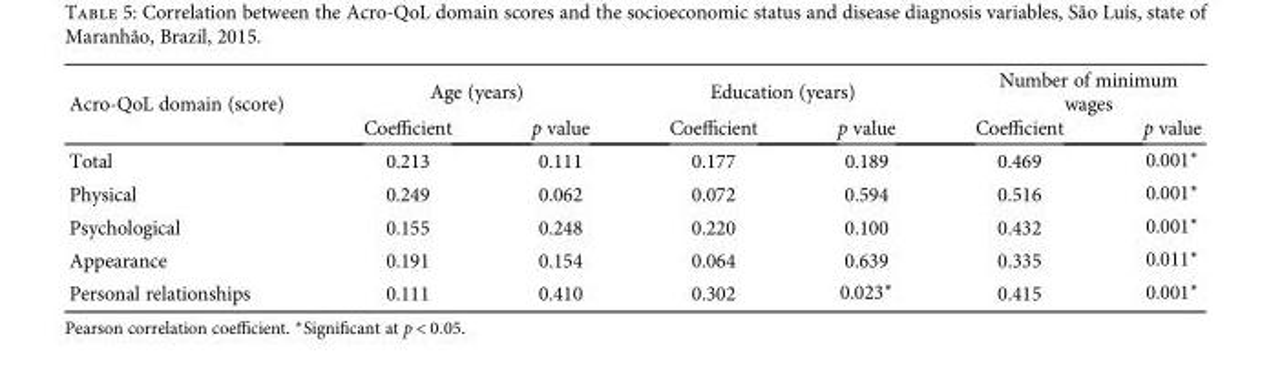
<table><thead><tr><td rowspan="2">Acro-QoL domain (score)</td><td colspan="2">Age (years)</td><td colspan="2">Education (years)</td><td colspan="2">Number of minimum wages</td></tr><tr><td>Coefficient</td><td>p value</td><td>Coefficient</td><td>p value</td><td>Coefficient</td><td>p value</td></tr></thead><tbody><tr><td>Total</td><td>0.213</td><td>0.111</td><td>0.177</td><td>0.189</td><td>0.469</td><td>0.001∗</td></tr><tr><td>Physical</td><td>0.249</td><td>0.062</td><td>0.072</td><td>0.594</td><td>0.516</td><td>0.001∗</td></tr><tr><td>Psychological</td><td>0.155</td><td>0.248</td><td>0.220</td><td>0.100</td><td>0.432</td><td>0.001∗</td></tr><tr><td>Appearance</td><td>0.191</td><td>0.154</td><td>0.064</td><td>0.639</td><td>0.335</td><td>0.011∗</td></tr><tr><td>Personal relationships</td><td>0.111</td><td>0.410</td><td>0.302</td><td>0.023∗</td><td>0.415</td><td>0.001∗</td></tr></tbody></table>